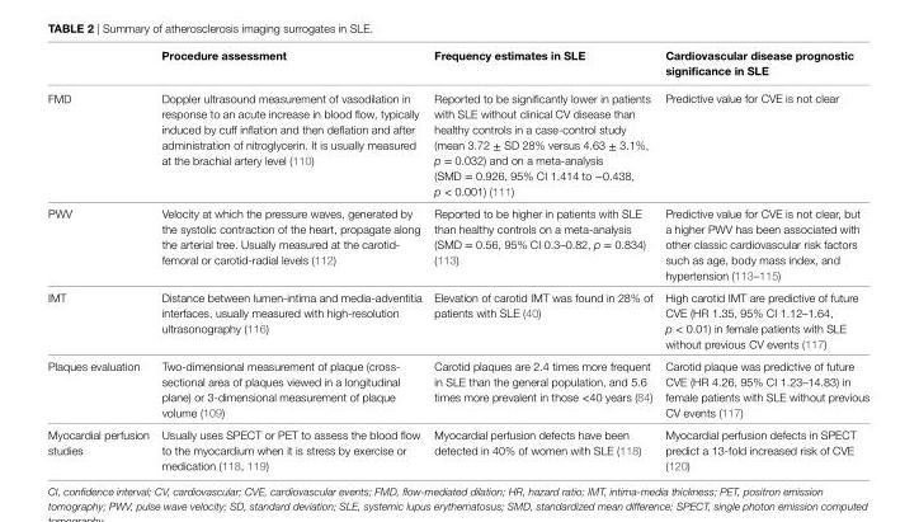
<table><thead><tr><td></td><td>Procedure assessment</td><td>Frequency estimates in SLe</td><td>Cardiovascular disease prognostic significance in SLe</td></tr></thead><tbody><tr><td>FMD</td><td>Doppler ultrasound measurement of vasodilation in response to an acute increase in blood flow, typically induced by cuff inflation and then deflation and after administration of nitroglycerin. It is usually measured at the brachial artery level (110)</td><td>Reported to be significantly lower in patients with SLE without clinical CV disease than healthy controls in a casecontrol study (mean 3.72 ± SD 28% versus 4.63 ± 3.1%, p = 0.032) and on a metaanalysis (SMD = 0.926, 95% CI 1.414 to −0.438, p &lt; 0.001) (111)</td><td>Predictive value for CVE is not clear</td></tr><tr><td>PWV</td><td>Velocity at which the pressure waves, generated by the systolic contraction of the heart, propagate along the arterial tree. Usually measured at the carotid femoral or carotidradial levels (112)</td><td>Reported to be higher in patients with SLE than healthy controls on a metaanalysis (SMD = 0.56, 95% CI 0.3–0.82, p = 0.834) (113)</td><td>Predictive value for CVE is not clear, but a higher PWV has been associated with other classic cardiovascular risk factors such as age, body mass index, and hypertension (113–115)</td></tr><tr><td>IMT</td><td>Distance between lumenintima and mediaadventitia interfaces, usually measured with highresolution ultrasonography (116)</td><td>Elevation of carotid IMT was found in 28% of patients with SLE (40)</td><td>High carotid IMT are predictive of future CVE (HR 1.35, 95% CI 1.12–1.64, p &lt; 0.01) in female patients with SLE without previous CV events (117)</td></tr><tr><td>Plaques evaluation</td><td>Twodimensional measurement of plaque (cross sectional area of plaques viewed in a longitudinal plane) or 3dimensional measurement of plaque volume (109)</td><td>Carotid plaques are 2.4 times more frequent in SLE than the general population, and 5.6 times more prevalent in those &lt;40 years (84)</td><td>Carotid plaque was predictive of future CVE (HR 4.26, 95% CI 1.23–14.83) in female patients with SLE without previous CV events (117)</td></tr><tr><td>Myocardial perfusion studies</td><td>Usually uses SPECT or PET to assess the blood flow to the myocardium when it is stress by exercise or medication (118, 119)</td><td>Myocardial perfusion defects have been detected in 40% of women with SLE (118)</td><td>Myocardial perfusion defects in SPECT predict a 13fold increased risk of CVE (120)</td></tr></tbody></table>